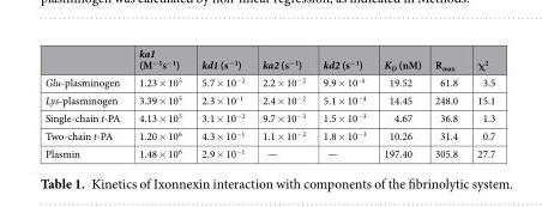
<table><thead><tr><td></td><td>ka1 (M<sup>−1</sup>s<sup>−1</sup>)</td><td>kd1 (s<sup>−1</sup>)</td><td>ka2 (s<sup>−1</sup>)</td><td>kd2 (s<sup>−1</sup>)</td><td>K<sub>D</sub> (nM)</td><td>R<sub>max</sub></td><td>χ<sup>2</sup></td></tr></thead><tbody><tr><td>Glu-plasminogen</td><td>1.23 × 10<sup>5</sup></td><td>5.7 × 10<sup>−2</sup></td><td>2.2 × 10<sup>−2</sup></td><td>9.9 × 10<sup>–4</sup></td><td>19.52</td><td>61.8</td><td>3.5</td></tr><tr><td>Lys-plasminogen</td><td>3.39 × 10<sup>5</sup></td><td>2.3 × 10<sup>–1</sup></td><td>2.4 × 10<sup>−2</sup></td><td>5.1 × 10<sup>−4</sup></td><td>14.45</td><td>248.0</td><td>15.1</td></tr><tr><td>Single-chain t-PA</td><td>4.13 × 10<sup>5</sup></td><td>3.1 × 10<sup>−2</sup></td><td>9.7 × 10<sup>−3</sup></td><td>1.5 × 10<sup>−3</sup></td><td>4.67</td><td>36.8</td><td>1.3</td></tr><tr><td>Two-chain t-PA</td><td>1.20 × 10<sup>6</sup></td><td>4.3 × 10<sup>−1</sup></td><td>1.1 × 10<sup>−2</sup></td><td>1.8 × 10<sup>−3</sup></td><td>10.26</td><td>31.4</td><td>0.7</td></tr><tr><td>Plasmin</td><td>1.48 × 10<sup>6</sup></td><td>2.9 × 10<sup>−1</sup></td><td>—</td><td>—</td><td>197.40</td><td>305.8</td><td>27.7</td></tr></tbody></table>